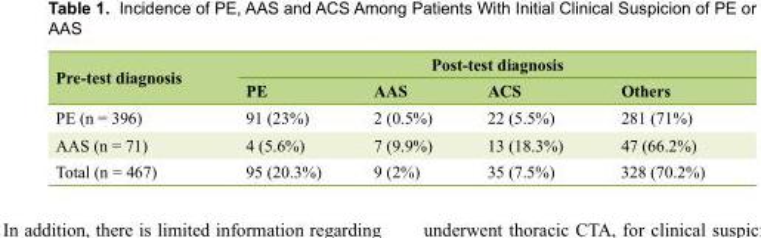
<table><thead><tr><td rowspan="2">Pre-test diagnosis</td><td colspan="4">Post-test diagnosis</td></tr><tr><td>PE</td><td>AAS</td><td>ACS</td><td>Others</td></tr></thead><tbody><tr><td>PE (n = 396)</td><td>91 (23%)</td><td>2 (0.5%)</td><td>22 (5.5%)</td><td>281 (71%)</td></tr><tr><td>AAS (n = 71)</td><td>4 (5.6%)</td><td>7 (9.9%)</td><td>13 (18.3%)</td><td>47 (66.2%)</td></tr><tr><td>Total (n = 467)</td><td>95 (20.3%)</td><td>9 (2%)</td><td>35 (7.5%)</td><td>328 (70.2%)</td></tr></tbody></table>